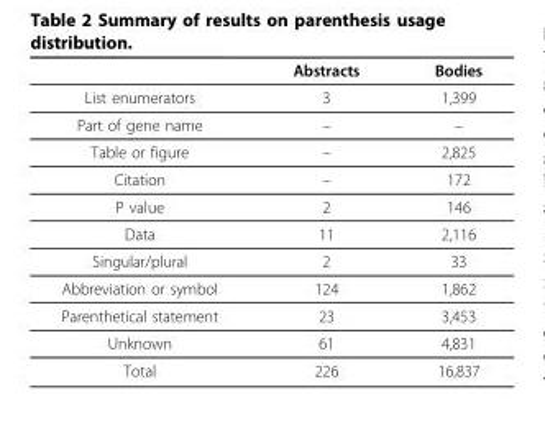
<table><thead><tr><td></td><td>Abstracts</td><td>Bodies</td></tr></thead><tbody><tr><td>List enumerators</td><td>3</td><td>1,399</td></tr><tr><td>Part of gene name</td><td>–</td><td>–</td></tr><tr><td>Table or figure</td><td>–</td><td>2,825</td></tr><tr><td>Citation</td><td>–</td><td>172</td></tr><tr><td>P value</td><td>2</td><td>146</td></tr><tr><td>Data</td><td>11</td><td>2,116</td></tr><tr><td>Singular/plural</td><td>2</td><td>33</td></tr><tr><td>Abbreviation or symbol</td><td>124</td><td>1,862</td></tr><tr><td>Parenthetical statement</td><td>23</td><td>3,453</td></tr><tr><td>Unknown</td><td>61</td><td>4,831</td></tr><tr><td>Total</td><td>226</td><td>16,837</td></tr></tbody></table>